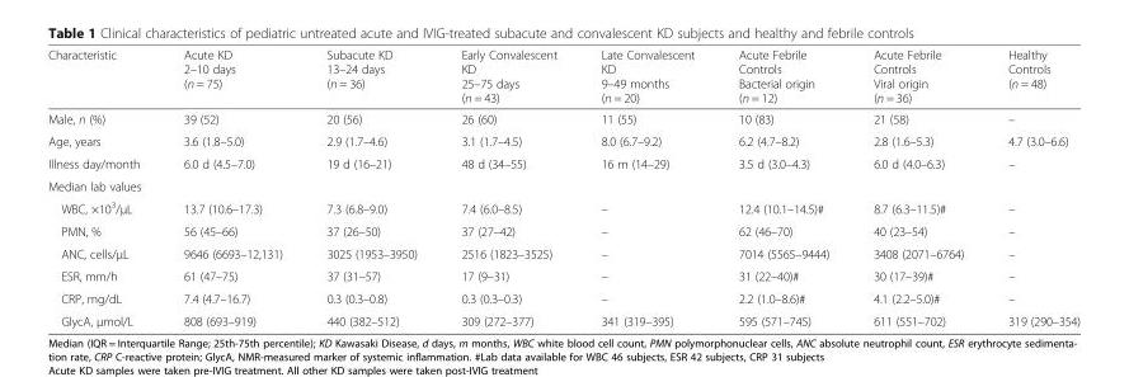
<table><thead><tr><td>Characteristic</td><td>Acute KD 2–10 days (n = 75)</td><td>Subacute KD 13–24 days (n = 36)</td><td>Early Convalescent KD 25–75 days (n = 43)</td><td>Late Convalescent KD 9–49 months (n = 20)</td><td>Acute Febrile Controls Bacterial origin (n = 12)</td><td>Acute Febrile Controls Viral origin (n = 36)</td><td>Healthy Controls (n = 48)</td></tr></thead><tbody><tr><td>Male, n (%)</td><td>39 (52)</td><td>20 (56)</td><td>26 (60)</td><td>11 (55)</td><td>10 (83)</td><td>21 (58)</td><td>–</td></tr><tr><td>Age, years</td><td>3.6 (1.8–5.0)</td><td>2.9 (1.7–4.6)</td><td>3.1 (1.7–4.5)</td><td>8.0 (6.7–9.2)</td><td>6.2 (4.7–8.2)</td><td>2.8 (1.6–5.3)</td><td>4.7 (3.0–6.6)</td></tr><tr><td>Illness day/month</td><td>6.0 d (4.5–7.0)</td><td>19 d (16–21)</td><td>48 d (34–55)</td><td>16 m (14–29)</td><td>3.5 d (3.0–4.3)</td><td>6.0 d (4.0–6.3)</td><td>–</td></tr><tr><td colspan="8">Median lab values</td></tr><tr><td>WBC, ×10<sup>3</sup>/μL</td><td>13.7 (10.6–17.3)</td><td>7.3 (6.8–9.0)</td><td>7.4 (6.0–8.5)</td><td>–</td><td>12.4 (10.1–14.5)#</td><td>8.7 (6.3–11.5)#</td><td>–</td></tr><tr><td>PMN, %</td><td>56 (45–66)</td><td>37 (26–50)</td><td>37 (27–42)</td><td>–</td><td>62 (46–70)</td><td>40 (23–54)</td><td>–</td></tr><tr><td>ANC, cells/μL</td><td>9646 (6693–12,131)</td><td>3025 (1953–3950)</td><td>2516 (1823–3525)</td><td>–</td><td>7014 (5565–9444)</td><td>3408 (2071–6764)</td><td>–</td></tr><tr><td>ESR, mm/h</td><td>61 (47–75)</td><td>37 (31–57)</td><td>17 (9–31)</td><td>–</td><td>31 (22–40)#</td><td>30 (17–39)#</td><td>–</td></tr><tr><td>CRP, mg/dL</td><td>7.4 (4.7–16.7)</td><td>0.3 (0.3–0.8)</td><td>0.3 (0.3–0.3)</td><td>–</td><td>2.2 (1.0–8.6)#</td><td>4.1 (2.2–5.0)#</td><td>–</td></tr><tr><td>GlycA, μmol/L</td><td>808 (693–919)</td><td>440 (382–512)</td><td>309 (272–377)</td><td>341 (319–395)</td><td>595 (571–745)</td><td>611 (551–702)</td><td>319 (290–354)</td></tr></tbody></table>